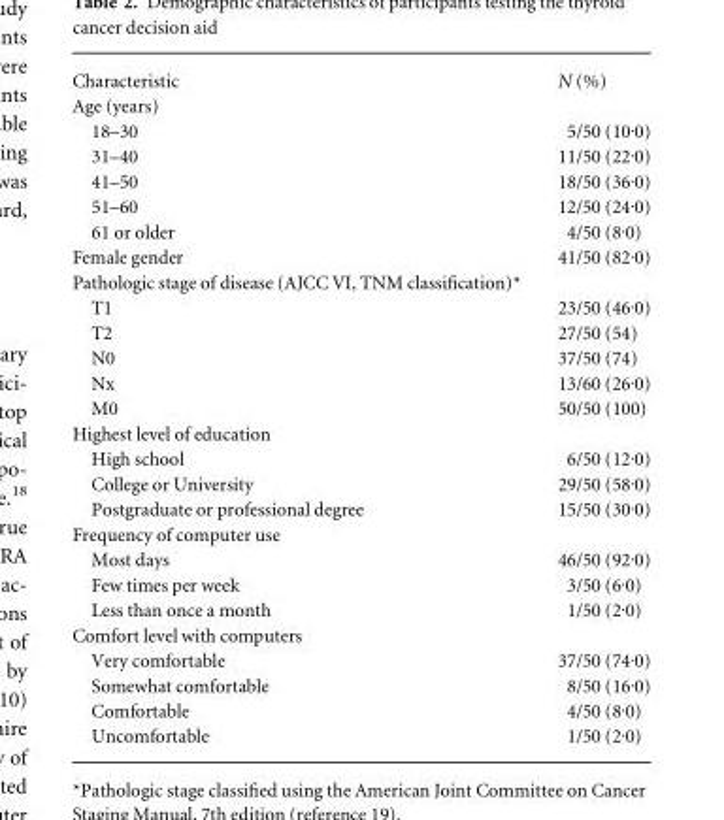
<table><tbody><tr><td>Characteristic</td><td>N (%)</td></tr><tr><td colspan="2">Age (years)</td></tr><tr><td>18–30</td><td>5/50 (10Æ0)</td></tr><tr><td>31–40</td><td>11/50 (22Æ0)</td></tr><tr><td>41–50</td><td>18/50 (36Æ0)</td></tr><tr><td>51–60</td><td>12/50 (24Æ0)</td></tr><tr><td>61 or older</td><td>4/50 (8Æ0)</td></tr><tr><td>Female gender</td><td>41/50 (82Æ0)</td></tr><tr><td colspan="2">Pathologic stage of disease (AJCC VI, TNM classification)*</td></tr><tr><td>T1</td><td>23/50 (46Æ0)</td></tr><tr><td>T2</td><td>27/50 (54)</td></tr><tr><td>N0</td><td>37/50 (74)</td></tr><tr><td>Nx</td><td>13/60 (26Æ0)</td></tr><tr><td>M0</td><td>50/50 (100)</td></tr><tr><td colspan="2">Highest level of education</td></tr><tr><td>High school</td><td>6/50 (12Æ0)</td></tr><tr><td>College or University</td><td>29/50 (58Æ0)</td></tr><tr><td>Postgraduate or professional degree</td><td>15/50 (30Æ0)</td></tr><tr><td colspan="2">Frequency of computer use</td></tr><tr><td>Most days</td><td>46/50 (92Æ0)</td></tr><tr><td>Few times per week</td><td>3/50 (6Æ0)</td></tr><tr><td>Less than once a month</td><td>1/50 (2Æ0)</td></tr><tr><td colspan="2">Comfort level with computers</td></tr><tr><td>Very comfortable</td><td>37/50 (74Æ0)</td></tr><tr><td>Somewhat comfortable</td><td>8/50 (16Æ0)</td></tr><tr><td>Comfortable</td><td>4/50 (8Æ0)</td></tr><tr><td>Uncomfortable</td><td>1/50 (2Æ0)</td></tr></tbody></table>